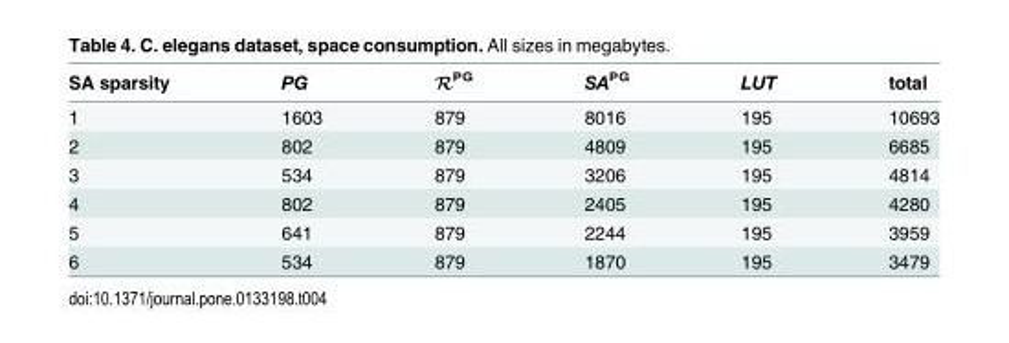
<table><thead><tr><td>SA sparsity</td><td>PG</td><td>R<sup>PG</sup></td><td>SA<sup>PG</sup></td><td>LUT</td><td>total</td></tr></thead><tbody><tr><td>1</td><td>1603</td><td>879</td><td>8016</td><td>195</td><td>10693</td></tr><tr><td>2</td><td>802</td><td>879</td><td>4809</td><td>195</td><td>6685</td></tr><tr><td>3</td><td>534</td><td>879</td><td>3206</td><td>195</td><td>4814</td></tr><tr><td>4</td><td>802</td><td>879</td><td>2405</td><td>195</td><td>4280</td></tr><tr><td>5</td><td>641</td><td>879</td><td>2244</td><td>195</td><td>3959</td></tr><tr><td>6</td><td>534</td><td>879</td><td>1870</td><td>195</td><td>3479</td></tr></tbody></table>